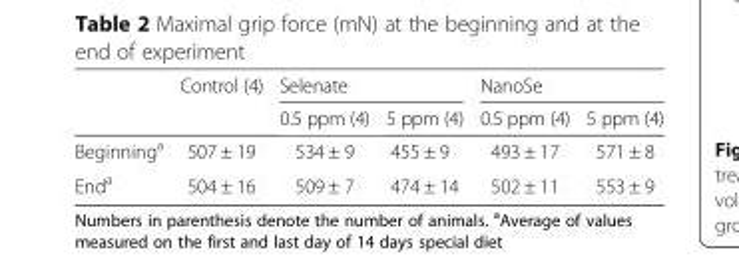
<table><thead><tr><td rowspan="2"></td><td rowspan="2">Control (4)</td><td colspan="2">Selenate</td><td colspan="2">NanoSe</td></tr><tr><td>0.5 ppm (4)</td><td>5 ppm (4)</td><td>0.5 ppm (4)</td><td>5 ppm (4)</td></tr></thead><tbody><tr><td>Beginning<sup>a</sup></td><td>507 ± 19</td><td>534 ± 9</td><td>455 ± 9</td><td>493 ± 17</td><td>571 ± 8</td></tr><tr><td>End<sup>a</sup></td><td>504 ± 16</td><td>509 ± 7</td><td>474 ± 14</td><td>502 ± 11</td><td>553 ± 9</td></tr></tbody></table>